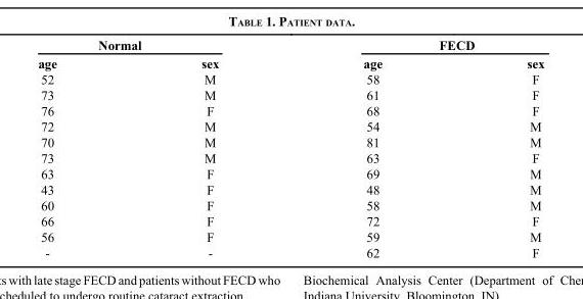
<table><thead><tr><td colspan="2">Normal</td><td colspan="2">FECD</td></tr><tr><td>age</td><td>sex</td><td>age</td><td>sex</td></tr></thead><tbody><tr><td>52</td><td>M</td><td>58</td><td>F</td></tr><tr><td>73</td><td>M</td><td>61</td><td>F</td></tr><tr><td>76</td><td>F</td><td>68</td><td>F</td></tr><tr><td>72</td><td>M</td><td>54</td><td>M</td></tr><tr><td>70</td><td>M</td><td>81</td><td>M</td></tr><tr><td>73</td><td>M</td><td>63</td><td>F</td></tr><tr><td>63</td><td>F</td><td>69</td><td>M</td></tr><tr><td>43</td><td>F</td><td>48</td><td>M</td></tr><tr><td>60</td><td>F</td><td>58</td><td>M</td></tr><tr><td>66</td><td>F</td><td>72</td><td>F</td></tr><tr><td>56</td><td>F</td><td>59</td><td>M</td></tr><tr><td>-</td><td>-</td><td>62</td><td>F</td></tr></tbody></table>